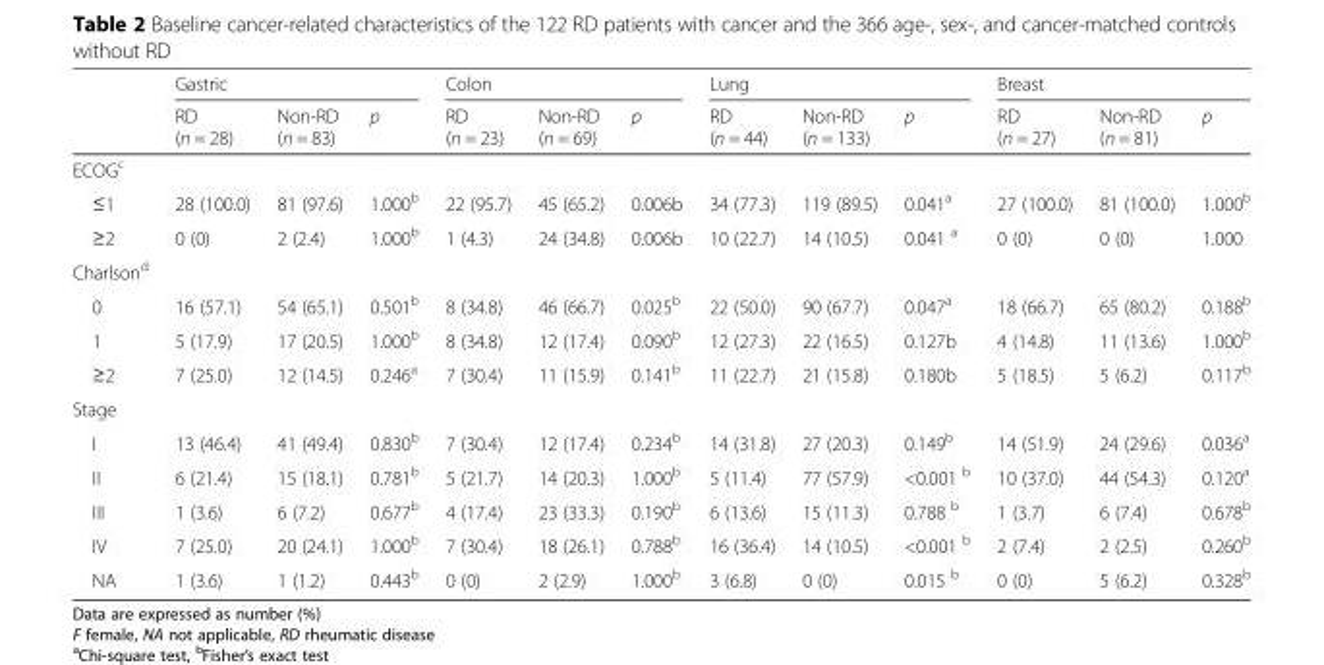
<table><thead><tr><td rowspan="2"></td><td colspan="3">Gastric</td><td colspan="3">Colon</td><td colspan="3">Lung</td><td colspan="3">Breast</td></tr><tr><td>RD (n = 28)</td><td>Non-RD (n = 83)</td><td>p</td><td>RD (n = 23)</td><td>Non-RD (n = 69)</td><td>p</td><td>RD (n = 44)</td><td>Non-RD (n = 133)</td><td>p</td><td>RD (n = 27)</td><td>Non-RD (n = 81)</td><td>p</td></tr></thead><tbody><tr><td colspan="13">ECOG<sup>c</sup></td></tr><tr><td>≤1</td><td>28 (100.0)</td><td>81 (97.6)</td><td>1.000<sup>b</sup></td><td>22 (95.7)</td><td>45 (65.2)</td><td>0.006b</td><td>34 (77.3)</td><td>119 (89.5)</td><td>0.041<sup>a</sup></td><td>27 (100.0)</td><td>81 (100.0)</td><td>1.000<sup>b</sup></td></tr><tr><td>≥2</td><td>0 (0)</td><td>2 (2.4)</td><td>1.000<sup>b</sup></td><td>1 (4.3)</td><td>24 (34.8)</td><td>0.006b</td><td>10 (22.7)</td><td>14 (10.5)</td><td>0.041 <sup>a</sup></td><td>0 (0)</td><td>0 (0)</td><td>1.000</td></tr><tr><td colspan="13">Charlson<sup>d</sup></td></tr><tr><td>0</td><td>16 (57.1)</td><td>54 (65.1)</td><td>0.501<sup>b</sup></td><td>8 (34.8)</td><td>46 (66.7)</td><td>0.025<sup>b</sup></td><td>22 (50.0)</td><td>90 (67.7)</td><td>0.047<sup>a</sup></td><td>18 (66.7)</td><td>65 (80.2)</td><td>0.188<sup>b</sup></td></tr><tr><td>1</td><td>5 (17.9)</td><td>17 (20.5)</td><td>1.000<sup>b</sup></td><td>8 (34.8)</td><td>12 (17.4)</td><td>0.090<sup>b</sup></td><td>12 (27.3)</td><td>22 (16.5)</td><td>0.127b</td><td>4 (14.8)</td><td>11 (13.6)</td><td>1.000<sup>b</sup></td></tr><tr><td>≥2</td><td>7 (25.0)</td><td>12 (14.5)</td><td>0.246<sup>a</sup></td><td>7 (30.4)</td><td>11 (15.9)</td><td>0.141<sup>b</sup></td><td>11 (22.7)</td><td>21 (15.8)</td><td>0.180b</td><td>5 (18.5)</td><td>5 (6.2)</td><td>0.117<sup>b</sup></td></tr><tr><td colspan="13">Stage</td></tr><tr><td>I</td><td>13 (46.4)</td><td>41 (49.4)</td><td>0.830<sup>b</sup></td><td>7 (30.4)</td><td>12 (17.4)</td><td>0.234<sup>b</sup></td><td>14 (31.8)</td><td>27 (20.3)</td><td>0.149<sup>b</sup></td><td>14 (51.9)</td><td>24 (29.6)</td><td>0.036<sup>a</sup></td></tr><tr><td>II</td><td>6 (21.4)</td><td>15 (18.1)</td><td>0.781<sup>b</sup></td><td>5 (21.7)</td><td>14 (20.3)</td><td>1.000<sup>b</sup></td><td>5 (11.4)</td><td>77 (57.9)</td><td>&lt;0.001 <sup>b</sup></td><td>10 (37.0)</td><td>44 (54.3)</td><td>0.120<sup>a</sup></td></tr><tr><td>III</td><td>1 (3.6)</td><td>6 (7.2)</td><td>0.677<sup>b</sup></td><td>4 (17.4)</td><td>23 (33.3)</td><td>0.190<sup>b</sup></td><td>6 (13.6)</td><td>15 (11.3)</td><td>0.788 <sup>b</sup></td><td>1 (3.7)</td><td>6 (7.4)</td><td>0.678<sup>b</sup></td></tr><tr><td>IV</td><td>7 (25.0)</td><td>20 (24.1)</td><td>1.000<sup>b</sup></td><td>7 (30.4)</td><td>18 (26.1)</td><td>0.788<sup>b</sup></td><td>16 (36.4)</td><td>14 (10.5)</td><td>&lt;0.001 <sup>b</sup></td><td>2 (7.4)</td><td>2 (2.5)</td><td>0.260<sup>b</sup></td></tr><tr><td>NA</td><td>1 (3.6)</td><td>1 (1.2)</td><td>0.443<sup>b</sup></td><td>0 (0)</td><td>2 (2.9)</td><td>1.000<sup>b</sup></td><td>3 (6.8)</td><td>0 (0)</td><td>0.015 <sup>b</sup></td><td>0 (0)</td><td>5 (6.2)</td><td>0.328<sup>b</sup></td></tr></tbody></table>